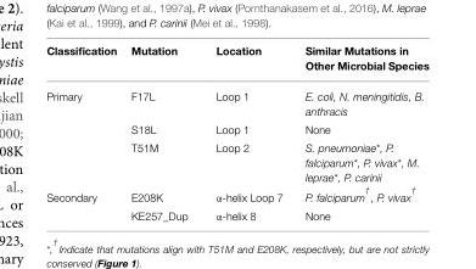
<table><thead><tr><td>Classification</td><td>Mutation</td><td>Location</td><td>Similar Mutations in Other Microbial Species</td></tr></thead><tbody><tr><td rowspan="3">Primary</td><td>F17L</td><td>Loop 1</td><td>E. coli, N. meningitidis, B. anthracis</td></tr><tr><td>S18L</td><td>Loop 1</td><td>None</td></tr><tr><td>T51M</td><td>Loop 2</td><td>S. pneumoniae*, P. falciparum*, P. vivax*, M. leprae*, P. carinii</td></tr><tr><td rowspan="2">Secondary</td><td>E208K</td><td>α-helix Loop 7</td><td>P. falciparum <sup>†</sup> , P. vivax <sup>†</sup></td></tr><tr><td>KE257_Dup</td><td>α-helix 8</td><td>None</td></tr></tbody></table>